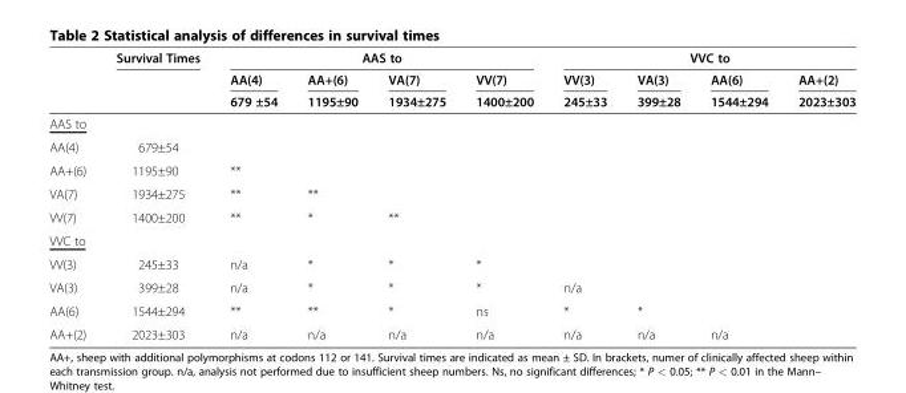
<table><thead><tr><td rowspan="3"></td><td rowspan="3">Survival Times</td><td colspan="4">AAS to</td><td colspan="4">VVC to</td></tr><tr><td rowspan="2">AA(4) 679 ±54</td><td rowspan="2">AA+(6) 1195±90</td><td rowspan="2">VA(7) 1934±275</td><td rowspan="2">VV(7) 1400±200</td><td rowspan="2">VV(3) 245±33</td><td rowspan="2">VA(3) 399±28</td><td rowspan="2">AA(6) 1544±294</td><td rowspan="2">AA+(2) 2023±303</td></tr><tr></tr></thead><tbody><tr><td colspan="10">AAS to</td></tr><tr><td>AA(4)</td><td>679±54</td><td></td><td></td><td></td><td></td><td></td><td></td><td></td><td></td></tr><tr><td>AA+(6)</td><td>1195±90</td><td>**</td><td></td><td></td><td></td><td></td><td></td><td></td><td></td></tr><tr><td>VA(7)</td><td>1934±275</td><td>**</td><td>**</td><td></td><td></td><td></td><td></td><td></td><td></td></tr><tr><td>VV(7)</td><td>1400±200</td><td>**</td><td>*</td><td>**</td><td></td><td></td><td></td><td></td><td></td></tr><tr><td colspan="10">VVC to</td></tr><tr><td>VV(3)</td><td>245±33</td><td>n/a</td><td>*</td><td>*</td><td>*</td><td></td><td></td><td></td><td></td></tr><tr><td>VA(3)</td><td>399±28</td><td>n/a</td><td>*</td><td>*</td><td>*</td><td>n/a</td><td></td><td></td><td></td></tr><tr><td>AA(6)</td><td>1544±294</td><td>**</td><td>**</td><td>*</td><td>ns</td><td>*</td><td>*</td><td></td><td></td></tr><tr><td>AA+(2)</td><td>2023±303</td><td>n/a</td><td>n/a</td><td>n/a</td><td>n/a</td><td>n/a</td><td>n/a</td><td>n/a</td><td></td></tr></tbody></table>